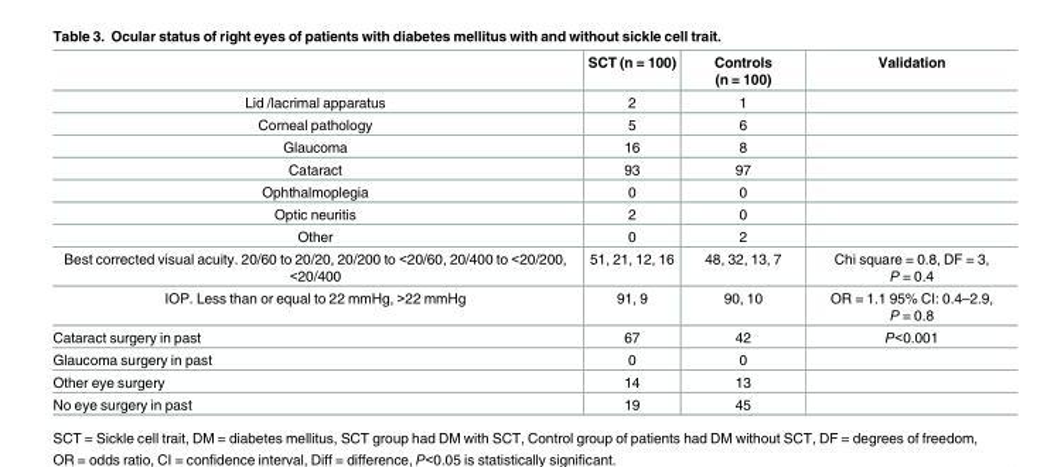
<table><thead><tr><td></td><td>SCT (n = 100)</td><td>Controls (n = 100)</td><td>Validation</td></tr></thead><tbody><tr><td>Lid /lacrimal apparatus</td><td>2</td><td>1</td><td></td></tr><tr><td>Corneal pathology</td><td>5</td><td>6</td><td></td></tr><tr><td>Glaucoma</td><td>16</td><td>8</td><td></td></tr><tr><td>Cataract</td><td>93</td><td>97</td><td></td></tr><tr><td>Ophthalmoplegia</td><td>0</td><td>0</td><td></td></tr><tr><td>Optic neuritis</td><td>2</td><td>0</td><td></td></tr><tr><td>Other</td><td>0</td><td>2</td><td></td></tr><tr><td>Best corrected visual acuity. 20/60 to 20/20, 20/200 to &lt;20/60, 20/400 to &lt;20/200, &lt;20/400</td><td>51, 21, 12, 16</td><td>48, 32, 13, 7</td><td>Chi square = 0.8, DF = 3, P = 0.4</td></tr><tr><td>IOP. Less than or equal to 22 mmHg, &gt;22 mmHg</td><td>91, 9</td><td>90, 10</td><td>OR = 1.1 95% CI: 0.4–2.9, P = 0.8</td></tr><tr><td>Cataract surgery in past</td><td>67</td><td>42</td><td>P&lt;0.001</td></tr><tr><td>Glaucoma surgery in past</td><td>0</td><td>0</td><td></td></tr><tr><td>Other eye surgery</td><td>14</td><td>13</td><td></td></tr><tr><td>No eye surgery in past</td><td>19</td><td>45</td><td></td></tr></tbody></table>